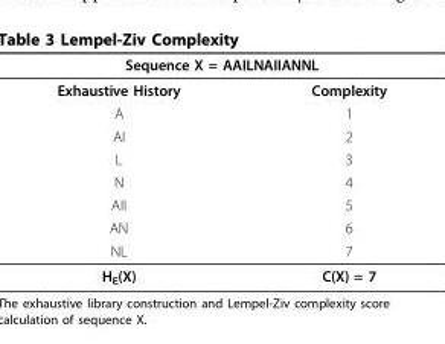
<table><thead><tr><td colspan="2">Sequence X = AAILNAIIANNL</td></tr><tr><td>Exhaustive History</td><td>Complexity</td></tr></thead><tbody><tr><td>A</td><td>1</td></tr><tr><td>AI</td><td>2</td></tr><tr><td>L</td><td>3</td></tr><tr><td>N</td><td>4</td></tr><tr><td>AII</td><td>5</td></tr><tr><td>AN</td><td>6</td></tr><tr><td>NL</td><td>7</td></tr><tr><td>H<sub>E</sub>(X)</td><td>C(X) = 7</td></tr></tbody></table>